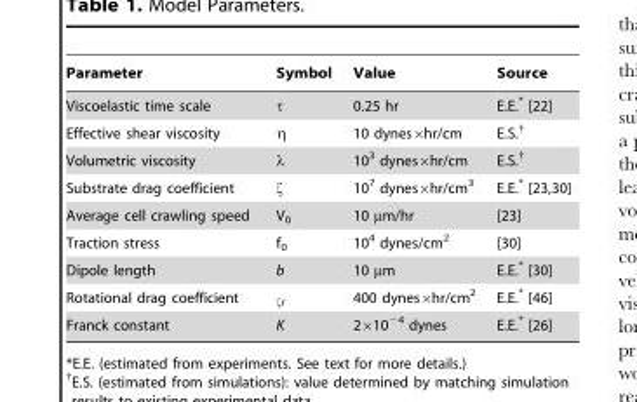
<table><thead><tr><td>Parameter</td><td>Symbol</td><td>Value</td><td>Source</td></tr></thead><tbody><tr><td>Viscoelastic time scale</td><td>τ</td><td>0.25 hr</td><td>E.E.* [22]</td></tr><tr><td>Effective shear viscosity</td><td>η</td><td>10 dynes×hr/cm</td><td>E.S.†</td></tr><tr><td>Volumetric viscosity</td><td>λ</td><td>10<sup>3</sup> dynes×hr/cm</td><td>E.S.†</td></tr><tr><td>Substrate drag coefficient</td><td>ζ</td><td>10<sup>7</sup> dynes×hr/cm<sup>3</sup></td><td>E.E.* [23,30]</td></tr><tr><td>Average cell crawling speed</td><td>V<sub>0</sub></td><td>10 µm/hr</td><td>[23]</td></tr><tr><td>Traction stress</td><td>f<sub>0</sub></td><td>10<sup>4</sup> dynes/cm<sup>2</sup></td><td>[30]</td></tr><tr><td>Dipole length</td><td>b</td><td>10 µm</td><td>E.E.* [30]</td></tr><tr><td>Rotational drag coefficient</td><td><sub>ζr</sub></td><td>400 dynes×hr/cm<sup>2</sup></td><td>E.E.* [46]</td></tr><tr><td>Franck constant</td><td>K</td><td>2×10<sup>−4</sup> dynes</td><td>E.E.* [26]</td></tr></tbody></table>